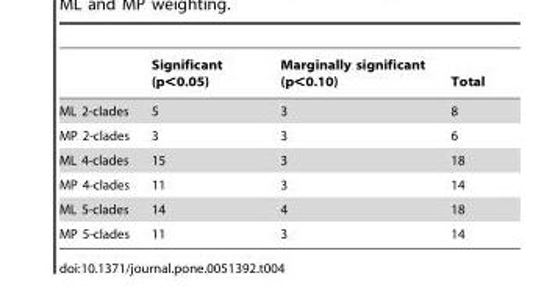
<table><thead><tr><td></td><td>Significant (p&lt;0.05)</td><td>Marginally significant (p&lt;0.10)</td><td>Total</td></tr></thead><tbody><tr><td>ML 2-clades</td><td>5</td><td>3</td><td>8</td></tr><tr><td>MP 2-clades</td><td>3</td><td>3</td><td>6</td></tr><tr><td>ML 4-clades</td><td>15</td><td>3</td><td>18</td></tr><tr><td>MP 4-clades</td><td>11</td><td>3</td><td>14</td></tr><tr><td>ML 5-clades</td><td>14</td><td>4</td><td>18</td></tr><tr><td>MP 5-clades</td><td>11</td><td>3</td><td>14</td></tr></tbody></table>